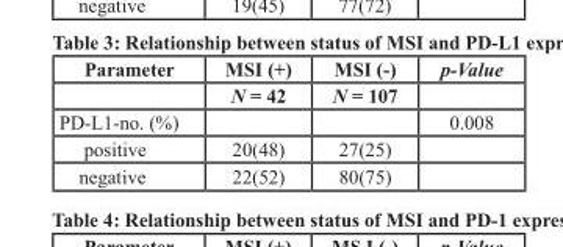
<table><thead><tr><td rowspan="2">Parameter</td><td rowspan="2">MSI (+) N = 42</td><td rowspan="2">MSI (-) N = 107</td><td rowspan="2">p-Value</td></tr><tr></tr></thead><tbody><tr><td>PD-L1-no. (%)</td><td></td><td></td><td>0.008</td></tr><tr><td>positive</td><td>20(48)</td><td>27(25)</td><td></td></tr><tr><td>negative</td><td>22(52)</td><td>80(75)</td><td></td></tr></tbody></table>